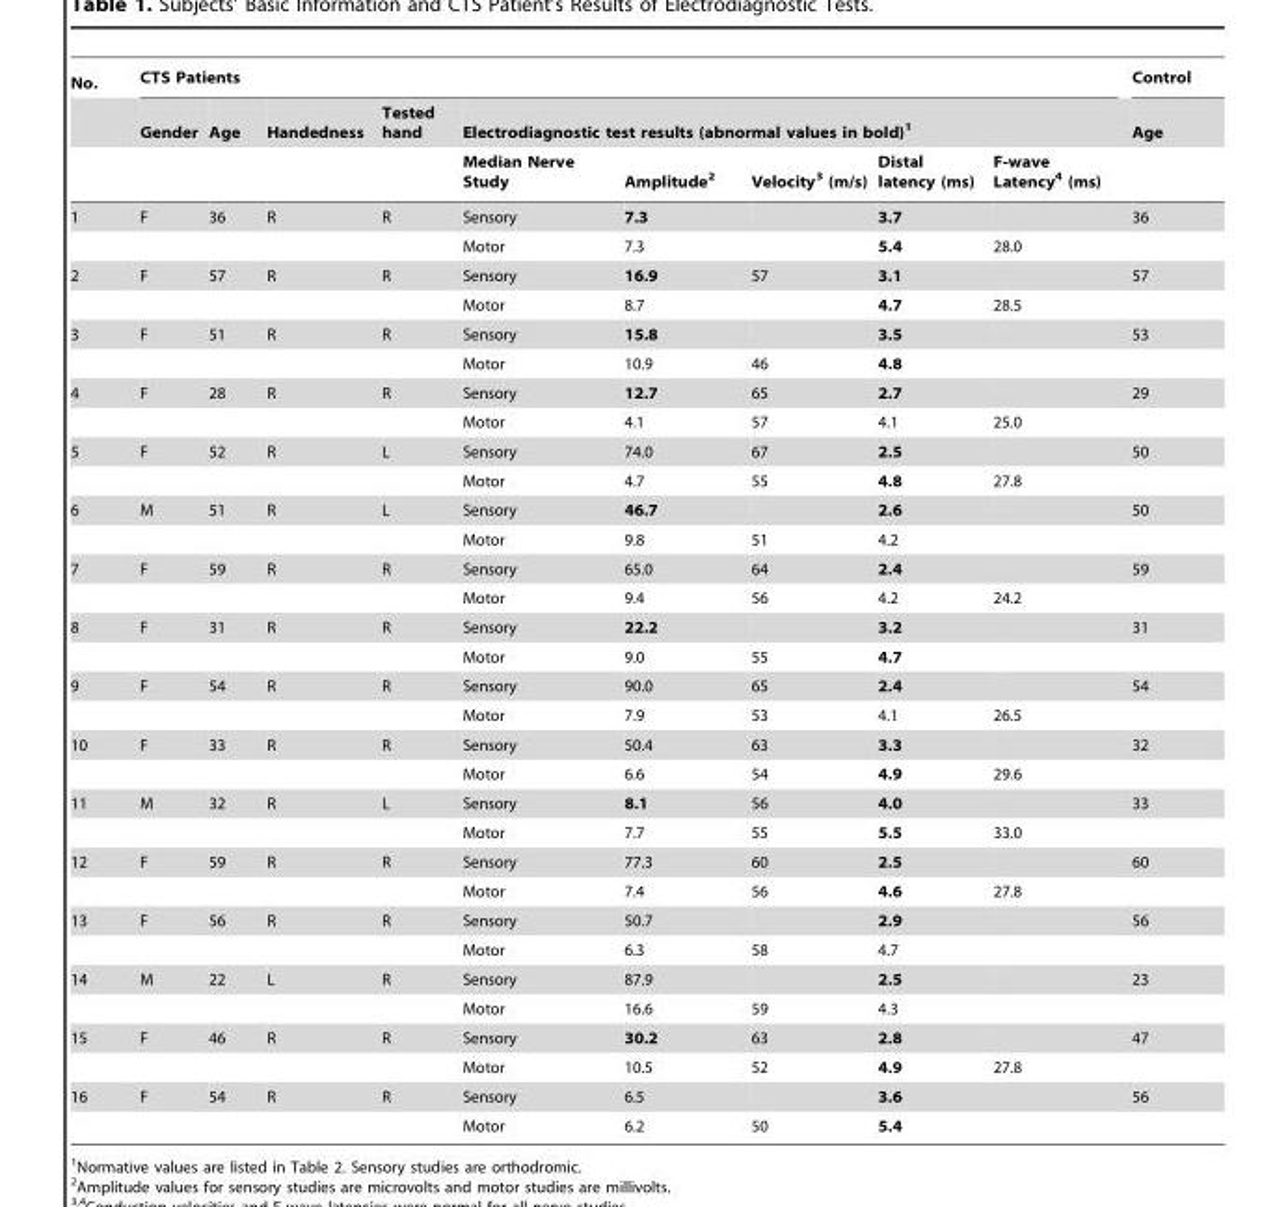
<table><thead><tr><td rowspan="3">No.</td><td colspan="9">CTS Patients</td><td rowspan="3">Control Age</td></tr><tr><td rowspan="2">Gender</td><td rowspan="2">Age</td><td rowspan="2">Handedness</td><td rowspan="2">Tested hand</td><td colspan="5">Electrodiagnostic test results (abnormal values in bold)<sup>1</sup></td></tr><tr><td>Median Nerve Study</td><td>Amplitude<sup>2</sup></td><td>Velocity<sup>3</sup> (m/s)</td><td>Distal latency (ms)</td><td>F-wave Latency<sup>4</sup> (ms)</td></tr></thead><tbody><tr><td rowspan="2">1</td><td>F</td><td>36</td><td>R</td><td>R</td><td>Sensory</td><td>7.3</td><td></td><td>3.7</td><td></td><td>36</td></tr><tr><td></td><td></td><td></td><td></td><td>Motor</td><td>7.3</td><td></td><td>5.4</td><td>28.0</td><td></td></tr><tr><td rowspan="2">2</td><td>F</td><td>57</td><td>R</td><td>R</td><td>Sensory</td><td>16.9</td><td>57</td><td>3.1</td><td></td><td>57</td></tr><tr><td></td><td></td><td></td><td></td><td>Motor</td><td>8.7</td><td></td><td>4.7</td><td>28.5</td><td></td></tr><tr><td rowspan="2">3</td><td>F</td><td>51</td><td>R</td><td>R</td><td>Sensory</td><td>15.8</td><td></td><td>3.5</td><td></td><td>53</td></tr><tr><td></td><td></td><td></td><td></td><td>Motor</td><td>10.9</td><td>46</td><td>4.8</td><td></td><td></td></tr><tr><td rowspan="2">4</td><td>F</td><td>28</td><td>R</td><td>R</td><td>Sensory</td><td>12.7</td><td>65</td><td>2.7</td><td></td><td>29</td></tr><tr><td></td><td></td><td></td><td></td><td>Motor</td><td>4.1</td><td>57</td><td>4.1</td><td>25.0</td><td></td></tr><tr><td rowspan="2">5</td><td>F</td><td>52</td><td>R</td><td>L</td><td>Sensory</td><td>74.0</td><td>67</td><td>2.5</td><td></td><td>50</td></tr><tr><td></td><td></td><td></td><td></td><td>Motor</td><td>4.7</td><td>55</td><td>4.8</td><td>27.8</td><td></td></tr><tr><td rowspan="2">6</td><td>M</td><td>51</td><td>R</td><td>L</td><td>Sensory</td><td>46.7</td><td></td><td>2.6</td><td></td><td>50</td></tr><tr><td></td><td></td><td></td><td></td><td>Motor</td><td>9.8</td><td>51</td><td>4.2</td><td></td><td></td></tr><tr><td rowspan="2">7</td><td>F</td><td>59</td><td>R</td><td>R</td><td>Sensory</td><td>65.0</td><td>64</td><td>2.4</td><td></td><td>59</td></tr><tr><td></td><td></td><td></td><td></td><td>Motor</td><td>9.4</td><td>56</td><td>4.2</td><td>24.2</td><td></td></tr><tr><td rowspan="2">8</td><td>F</td><td>31</td><td>R</td><td>R</td><td>Sensory</td><td>22.2</td><td></td><td>3.2</td><td></td><td>31</td></tr><tr><td></td><td></td><td></td><td></td><td>Motor</td><td>9.0</td><td>55</td><td>4.7</td><td></td><td></td></tr><tr><td rowspan="2">9</td><td>F</td><td>54</td><td>R</td><td>R</td><td>Sensory</td><td>90.0</td><td>65</td><td>2.4</td><td></td><td>54</td></tr><tr><td></td><td></td><td></td><td></td><td>Motor</td><td>7.9</td><td>53</td><td>4.1</td><td>26.5</td><td></td></tr><tr><td rowspan="2">10</td><td>F</td><td>33</td><td>R</td><td>R</td><td>Sensory</td><td>50.4</td><td>63</td><td>3.3</td><td></td><td>32</td></tr><tr><td></td><td></td><td></td><td></td><td>Motor</td><td>6.6</td><td>54</td><td>4.9</td><td>29.6</td><td></td></tr><tr><td rowspan="2">11</td><td>M</td><td>32</td><td>R</td><td>L</td><td>Sensory</td><td>8.1</td><td>56</td><td>4.0</td><td></td><td>33</td></tr><tr><td></td><td></td><td></td><td></td><td>Motor</td><td>7.7</td><td>55</td><td>5.5</td><td>33.0</td><td></td></tr><tr><td rowspan="2">12</td><td>F</td><td>59</td><td>R</td><td>R</td><td>Sensory</td><td>77.3</td><td>60</td><td>2.5</td><td></td><td>60</td></tr><tr><td></td><td></td><td></td><td></td><td>Motor</td><td>7.4</td><td>56</td><td>4.6</td><td>27.8</td><td></td></tr><tr><td rowspan="2">13</td><td>F</td><td>56</td><td>R</td><td>R</td><td>Sensory</td><td>50.7</td><td></td><td>2.9</td><td></td><td>56</td></tr><tr><td></td><td></td><td></td><td></td><td>Motor</td><td>6.3</td><td>58</td><td>4.7</td><td></td><td></td></tr><tr><td rowspan="2">14</td><td>M</td><td>22</td><td>L</td><td>R</td><td>Sensory</td><td>87.9</td><td></td><td>2.5</td><td></td><td>23</td></tr><tr><td></td><td></td><td></td><td></td><td>Motor</td><td>16.6</td><td>59</td><td>4.3</td><td></td><td></td></tr><tr><td rowspan="2">15</td><td>F</td><td>46</td><td>R</td><td>R</td><td>Sensory</td><td>30.2</td><td>63</td><td>2.8</td><td></td><td>47</td></tr><tr><td></td><td></td><td></td><td></td><td>Motor</td><td>10.5</td><td>52</td><td>4.9</td><td>27.8</td><td></td></tr><tr><td rowspan="2">16</td><td>F</td><td>54</td><td>R</td><td>R</td><td>Sensory</td><td>6.5</td><td></td><td>3.6</td><td></td><td>56</td></tr><tr><td></td><td></td><td></td><td></td><td>Motor</td><td>6.2</td><td>50</td><td>5.4</td><td></td><td></td></tr></tbody></table>